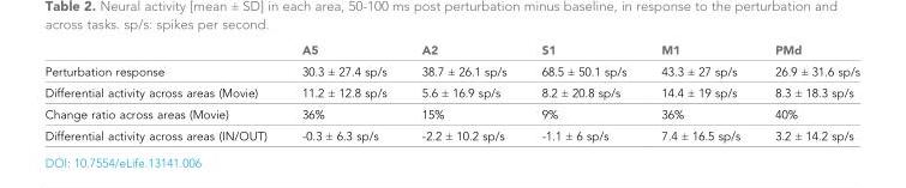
<table><thead><tr><td></td><td>A5</td><td>A2</td><td>S1</td><td>M1</td><td>PMd</td></tr></thead><tbody><tr><td>Perturbation response</td><td>30.3 ± 27.4 sp/s</td><td>38.7 ± 26.1 sp/s</td><td>68.5 ± 50.1 sp/s</td><td>43.3 ± 27 sp/s</td><td>26.9 ± 31.6 sp/s</td></tr><tr><td>Differential activity across areas (Movie)</td><td>11.2 ± 12.8 sp/s</td><td>5.6 ± 16.9 sp/s</td><td>8.2 ± 20.8 sp/s</td><td>14.4 ± 19 sp/s</td><td>8.3 ± 18.3 sp/s</td></tr><tr><td>Change ratio across areas (Movie)</td><td>36%</td><td>15%</td><td>9%</td><td>36%</td><td>40%</td></tr><tr><td>Differential activity across areas (IN/OUT)</td><td>-0.3 ± 6.3 sp/s</td><td>-2.2 ± 10.2 sp/s</td><td>-1.1 ± 6 sp/s</td><td>7.4 ± 16.5 sp/s</td><td>3.2 ± 14.2 sp/s</td></tr></tbody></table>